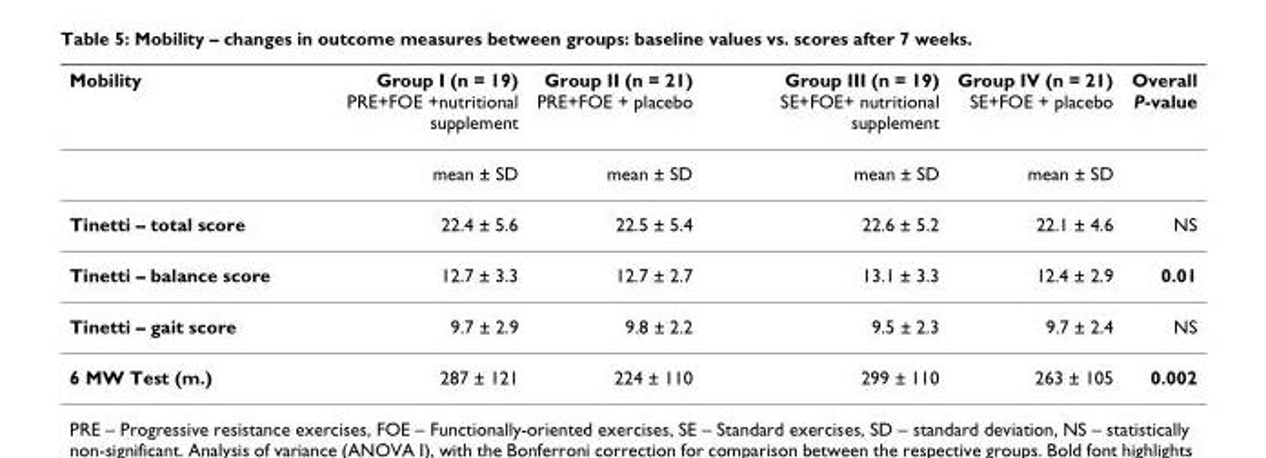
<table><thead><tr><td>Mobility</td><td>Group I (n = 19) PRE+FOE +nutritional supplement</td><td>Group II (n = 21) PRE+FOE + placebo</td><td>Group III (n = 19) SE+FOE+ nutritional supplement</td><td>Group IV (n = 21) SE+FOE + placebo</td><td>Overall P-value</td></tr></thead><tbody><tr><td></td><td>mean ± SD</td><td>mean ± SD</td><td>mean ± SD</td><td>mean ± SD</td><td></td></tr><tr><td>Tinetti – total score</td><td>22.4 ± 5.6</td><td>22.5 ± 5.4</td><td>22.6 ± 5.2</td><td>22.1 ± 4.6</td><td>NS</td></tr><tr><td>Tinetti – balance score</td><td>12.7 ± 3.3</td><td>12.7 ± 2.7</td><td>13.1 ± 3.3</td><td>12.4 ± 2.9</td><td>0.01</td></tr><tr><td>Tinetti – gait score</td><td>9.7 ± 2.9</td><td>9.8 ± 2.2</td><td>9.5 ± 2.3</td><td>9.7 ± 2.4</td><td>NS</td></tr><tr><td>6 MW Test (m.)</td><td>287 ± 121</td><td>224 ± 110</td><td>299 ± 110</td><td>263 ± 105</td><td>0.002</td></tr></tbody></table>